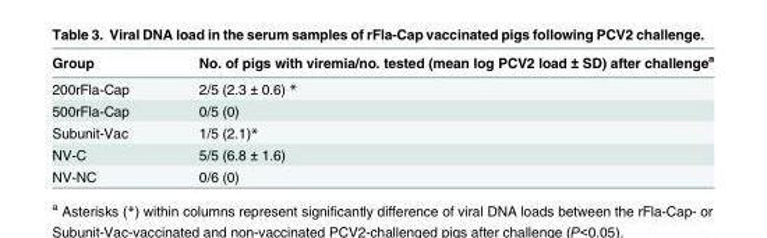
<table><thead><tr><td>Group</td><td>No. of pigs with viremia/no. tested (mean log PCV2 load ± SD) after challenge<sup>a</sup></td></tr></thead><tbody><tr><td>200rFla-Cap</td><td>2/5 (2.3 ± 0.6) *</td></tr><tr><td>500rFla-Cap</td><td>0/5 (0)</td></tr><tr><td>Subunit-Vac</td><td>1/5 (2.1)*</td></tr><tr><td>NV-C</td><td>5/5 (6.8 ± 1.6)</td></tr><tr><td>NV-NC</td><td>0/6 (0)</td></tr></tbody></table>